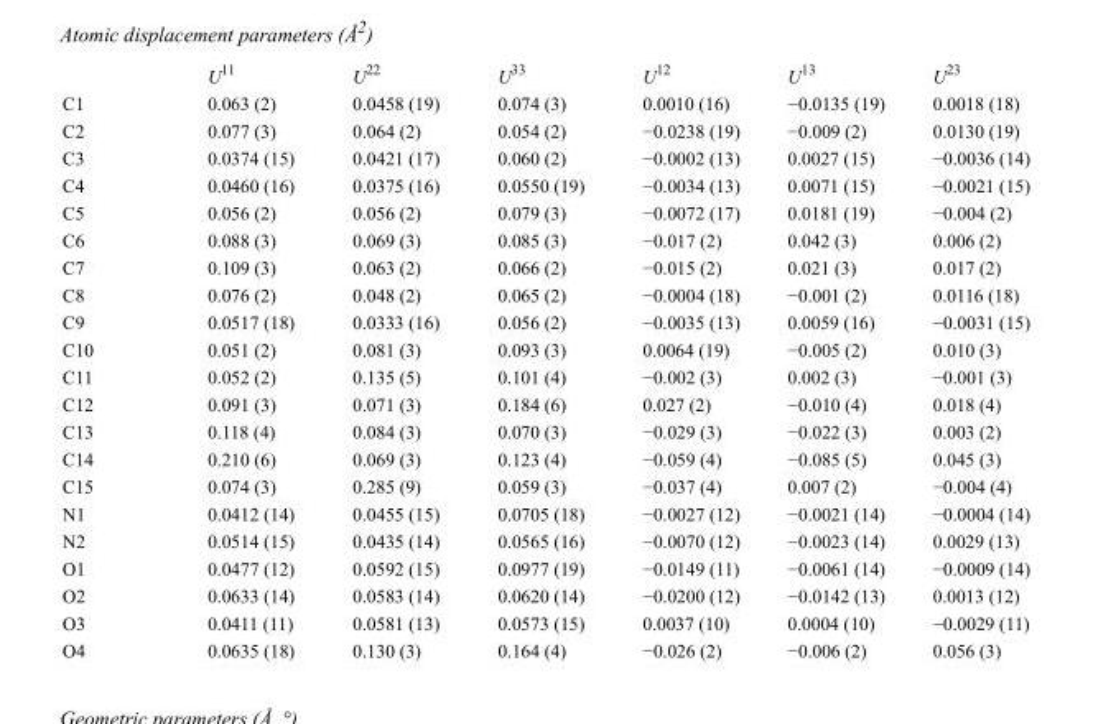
<table><thead><tr><td></td><td>U<sup>11</sup></td><td>U<sup>22</sup></td><td>U<sup>33</sup></td><td>U<sup>12</sup></td><td>U<sup>13</sup></td><td>U<sup>23</sup></td></tr></thead><tbody><tr><td>C1</td><td>0.063 (2)</td><td>0.0458 (19)</td><td>0.074 (3)</td><td>0.0010 (16)</td><td>−0.0135 (19)</td><td>0.0018 (18)</td></tr><tr><td>C2</td><td>0.077 (3)</td><td>0.064 (2)</td><td>0.054 (2)</td><td>−0.0238 (19)</td><td>−0.009 (2)</td><td>0.0130 (19)</td></tr><tr><td>C3</td><td>0.0374 (15)</td><td>0.0421 (17)</td><td>0.060 (2)</td><td>−0.0002 (13)</td><td>0.0027 (15)</td><td>−0.0036 (14)</td></tr><tr><td>C4</td><td>0.0460 (16)</td><td>0.0375 (16)</td><td>0.0550 (19)</td><td>−0.0034 (13)</td><td>0.0071 (15)</td><td>−0.0021 (15)</td></tr><tr><td>C5</td><td>0.056 (2)</td><td>0.056 (2)</td><td>0.079 (3)</td><td>−0.0072 (17)</td><td>0.0181 (19)</td><td>−0.004 (2)</td></tr><tr><td>C6</td><td>0.088 (3)</td><td>0.069 (3)</td><td>0.085 (3)</td><td>−0.017 (2)</td><td>0.042 (3)</td><td>0.006 (2)</td></tr><tr><td>C7</td><td>0.109 (3)</td><td>0.063 (2)</td><td>0.066 (2)</td><td>−0.015 (2)</td><td>0.021 (3)</td><td>0.017 (2)</td></tr><tr><td>C8</td><td>0.076 (2)</td><td>0.048 (2)</td><td>0.065 (2)</td><td>−0.0004 (18)</td><td>−0.001 (2)</td><td>0.0116 (18)</td></tr><tr><td>C9</td><td>0.0517 (18)</td><td>0.0333 (16)</td><td>0.056 (2)</td><td>−0.0035 (13)</td><td>0.0059 (16)</td><td>−0.0031 (15)</td></tr><tr><td>C10</td><td>0.051 (2)</td><td>0.081 (3)</td><td>0.093 (3)</td><td>0.0064 (19)</td><td>−0.005 (2)</td><td>0.010 (3)</td></tr><tr><td>C11</td><td>0.052 (2)</td><td>0.135 (5)</td><td>0.101 (4)</td><td>−0.002 (3)</td><td>0.002 (3)</td><td>−0.001 (3)</td></tr><tr><td>C12</td><td>0.091 (3)</td><td>0.071 (3)</td><td>0.184 (6)</td><td>0.027 (2)</td><td>−0.010 (4)</td><td>0.018 (4)</td></tr><tr><td>C13</td><td>0.118 (4)</td><td>0.084 (3)</td><td>0.070 (3)</td><td>−0.029 (3)</td><td>−0.022 (3)</td><td>0.003 (2)</td></tr><tr><td>C14</td><td>0.210 (6)</td><td>0.069 (3)</td><td>0.123 (4)</td><td>−0.059 (4)</td><td>−0.085 (5)</td><td>0.045 (3)</td></tr><tr><td>C15</td><td>0.074 (3)</td><td>0.285 (9)</td><td>0.059 (3)</td><td>−0.037 (4)</td><td>0.007 (2)</td><td>−0.004 (4)</td></tr><tr><td>N1</td><td>0.0412 (14)</td><td>0.0455 (15)</td><td>0.0705 (18)</td><td>−0.0027 (12)</td><td>−0.0021 (14)</td><td>−0.0004 (14)</td></tr><tr><td>N2</td><td>0.0514 (15)</td><td>0.0435 (14)</td><td>0.0565 (16)</td><td>−0.0070 (12)</td><td>−0.0023 (14)</td><td>0.0029 (13)</td></tr><tr><td>O1</td><td>0.0477 (12)</td><td>0.0592 (15)</td><td>0.0977 (19)</td><td>−0.0149 (11)</td><td>−0.0061 (14)</td><td>−0.0009 (14)</td></tr><tr><td>O2</td><td>0.0633 (14)</td><td>0.0583 (14)</td><td>0.0620 (14)</td><td>−0.0200 (12)</td><td>−0.0142 (13)</td><td>0.0013 (12)</td></tr><tr><td>O3</td><td>0.0411 (11)</td><td>0.0581 (13)</td><td>0.0573 (15)</td><td>0.0037 (10)</td><td>0.0004 (10)</td><td>−0.0029 (11)</td></tr><tr><td>O4</td><td>0.0635 (18)</td><td>0.130 (3)</td><td>0.164 (4)</td><td>−0.026 (2)</td><td>−0.006 (2)</td><td>0.056 (3)</td></tr></tbody></table>